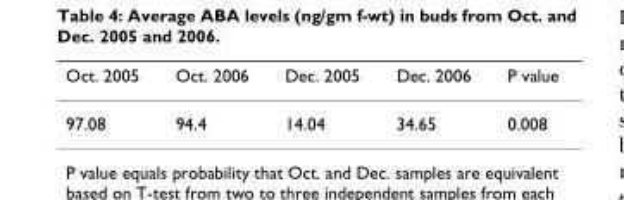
<table><thead><tr><td>Oct. 2005</td><td>Oct. 2006</td><td>Dec. 2005</td><td>Dec. 2006</td><td>P value</td></tr></thead><tbody><tr><td>97.08</td><td>94.4</td><td>14.04</td><td>34.65</td><td>0.008</td></tr></tbody></table>